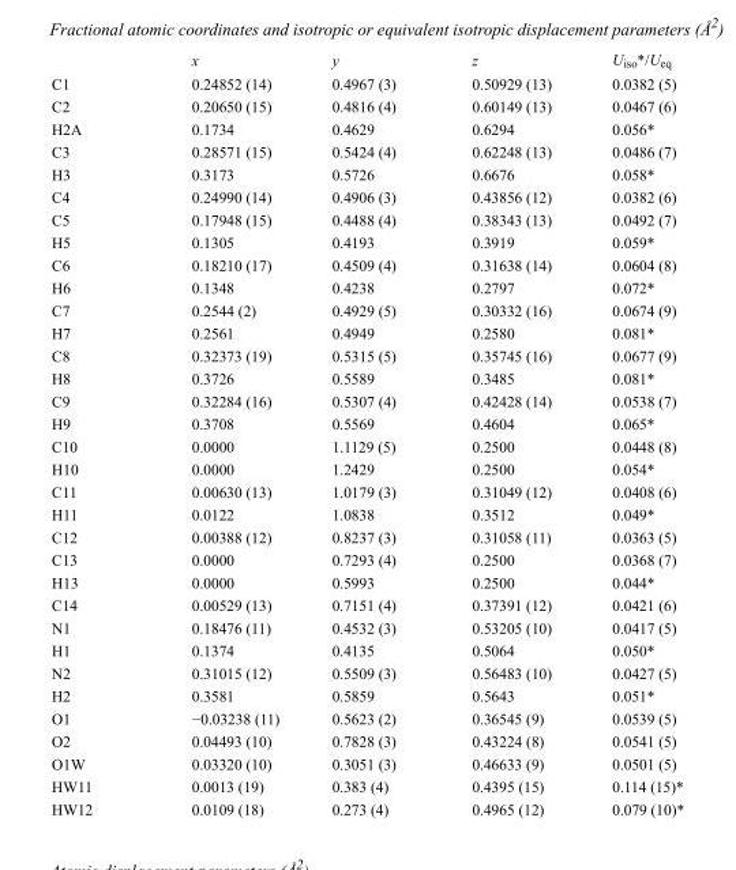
<table><thead><tr><td></td><td>x</td><td>y</td><td>z</td><td>U<sub>iso</sub>*/U<sub>eq</sub></td></tr></thead><tbody><tr><td>C1</td><td>0.24852 (14)</td><td>0.4967 (3)</td><td>0.50929 (13)</td><td>0.0382 (5)</td></tr><tr><td>C2</td><td>0.20650 (15)</td><td>0.4816 (4)</td><td>0.60149 (13)</td><td>0.0467 (6)</td></tr><tr><td>H2A</td><td>0.1734</td><td>0.4629</td><td>0.6294</td><td>0.056*</td></tr><tr><td>C3</td><td>0.28571 (15)</td><td>0.5424 (4)</td><td>0.62248 (13)</td><td>0.0486 (7)</td></tr><tr><td>H3</td><td>0.3173</td><td>0.5726</td><td>0.6676</td><td>0.058*</td></tr><tr><td>C4</td><td>0.24990 (14)</td><td>0.4906 (3)</td><td>0.43856 (12)</td><td>0.0382 (6)</td></tr><tr><td>C5</td><td>0.17948 (15)</td><td>0.4488 (4)</td><td>0.38343 (13)</td><td>0.0492 (7)</td></tr><tr><td>H5</td><td>0.1305</td><td>0.4193</td><td>0.3919</td><td>0.059*</td></tr><tr><td>C6</td><td>0.18210 (17)</td><td>0.4509 (4)</td><td>0.31638 (14)</td><td>0.0604 (8)</td></tr><tr><td>H6</td><td>0.1348</td><td>0.4238</td><td>0.2797</td><td>0.072*</td></tr><tr><td>C7</td><td>0.2544 (2)</td><td>0.4929 (5)</td><td>0.30332 (16)</td><td>0.0674 (9)</td></tr><tr><td>H7</td><td>0.2561</td><td>0.4949</td><td>0.2580</td><td>0.081*</td></tr><tr><td>C8</td><td>0.32373 (19)</td><td>0.5315 (5)</td><td>0.35745 (16)</td><td>0.0677 (9)</td></tr><tr><td>H8</td><td>0.3726</td><td>0.5589</td><td>0.3485</td><td>0.081*</td></tr><tr><td>C9</td><td>0.32284 (16)</td><td>0.5307 (4)</td><td>0.42428 (14)</td><td>0.0538 (7)</td></tr><tr><td>H9</td><td>0.3708</td><td>0.5569</td><td>0.4604</td><td>0.065*</td></tr><tr><td>C10</td><td>0.0000</td><td>1.1129 (5)</td><td>0.2500</td><td>0.0448 (8)</td></tr><tr><td>H10</td><td>0.0000</td><td>1.2429</td><td>0.2500</td><td>0.054*</td></tr><tr><td>C11</td><td>0.00630 (13)</td><td>1.0179 (3)</td><td>0.31049 (12)</td><td>0.0408 (6)</td></tr><tr><td>H11</td><td>0.0122</td><td>1.0838</td><td>0.3512</td><td>0.049*</td></tr><tr><td>C12</td><td>0.00388 (12)</td><td>0.8237 (3)</td><td>0.31058 (11)</td><td>0.0363 (5)</td></tr><tr><td>C13</td><td>0.0000</td><td>0.7293 (4)</td><td>0.2500</td><td>0.0368 (7)</td></tr><tr><td>H13</td><td>0.0000</td><td>0.5993</td><td>0.2500</td><td>0.044*</td></tr><tr><td>C14</td><td>0.00529 (13)</td><td>0.7151 (4)</td><td>0.37391 (12)</td><td>0.0421 (6)</td></tr><tr><td>N1</td><td>0.18476 (11)</td><td>0.4532 (3)</td><td>0.53205 (10)</td><td>0.0417 (5)</td></tr><tr><td>H1</td><td>0.1374</td><td>0.4135</td><td>0.5064</td><td>0.050*</td></tr><tr><td>N2</td><td>0.31015 (12)</td><td>0.5509 (3)</td><td>0.56483 (10)</td><td>0.0427 (5)</td></tr><tr><td>H2</td><td>0.3581</td><td>0.5859</td><td>0.5643</td><td>0.051*</td></tr><tr><td>O1</td><td>−0.03238 (11)</td><td>0.5623 (2)</td><td>0.36545 (9)</td><td>0.0539 (5)</td></tr><tr><td>O2</td><td>0.04493 (10)</td><td>0.7828 (3)</td><td>0.43224 (8)</td><td>0.0541 (5)</td></tr><tr><td>O1W</td><td>0.03320 (10)</td><td>0.3051 (3)</td><td>0.46633 (9)</td><td>0.0501 (5)</td></tr><tr><td>HW11</td><td>0.0013 (19)</td><td>0.383 (4)</td><td>0.4395 (15)</td><td>0.114 (15)*</td></tr><tr><td>HW12</td><td>0.0109 (18)</td><td>0.273 (4)</td><td>0.4965 (12)</td><td>0.079 (10)*</td></tr></tbody></table>